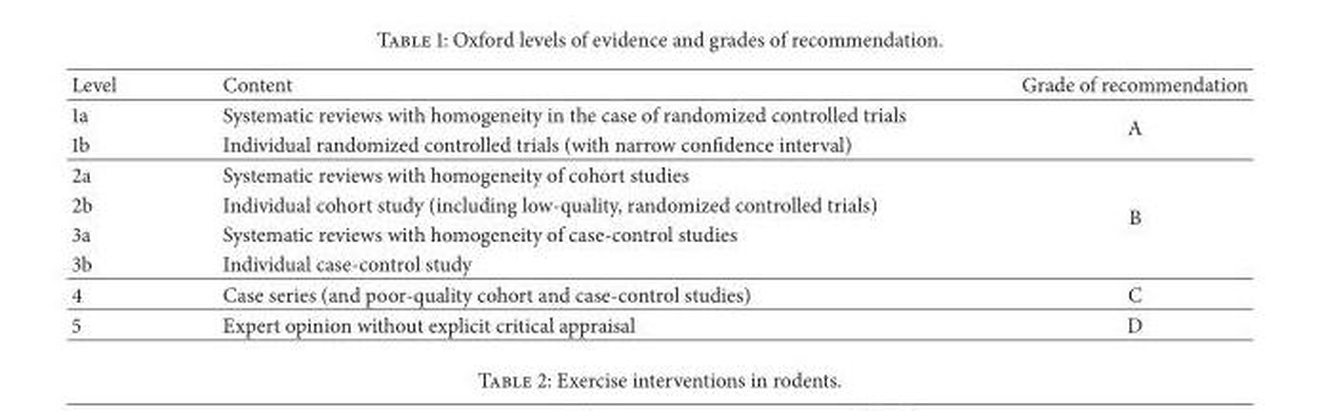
<table><thead><tr><td>Level</td><td>Content</td><td>Grade of recommendation</td></tr></thead><tbody><tr><td>1a</td><td>Systematic reviews with homogeneity in the case of randomized controlled trials</td><td rowspan="2">A</td></tr><tr><td>1b</td><td>Individual randomized controlled trials (with narrow confidence interval)</td></tr><tr><td>2a</td><td>Systematic reviews with homogeneity of cohort studies</td><td rowspan="4">B</td></tr><tr><td>2b</td><td>Individual cohort study (including low-quality, randomized controlled trials)</td></tr><tr><td>3a</td><td>Systematic reviews with homogeneity of case-control studies</td></tr><tr><td>3b</td><td>Individual case-control study</td></tr><tr><td>4</td><td>Case series (and poor-quality cohort and case-control studies)</td><td>C</td></tr><tr><td>5</td><td>Expert opinion without explicit critical appraisal</td><td>D</td></tr></tbody></table>